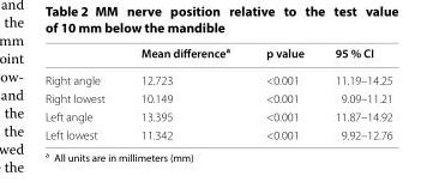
<table><thead><tr><td></td><td>Mean difference<sup>a</sup></td><td>p value</td><td>95 % CI</td></tr></thead><tbody><tr><td>Right angle</td><td>12.723</td><td>&lt;0.001</td><td>11.19–14.25</td></tr><tr><td>Right lowest</td><td>10.149</td><td>&lt;0.001</td><td>9.09–11.21</td></tr><tr><td>Left angle</td><td>13.395</td><td>&lt;0.001</td><td>11.87–14.92</td></tr><tr><td>Left lowest</td><td>11.342</td><td>&lt;0.001</td><td>9.92–12.76</td></tr></tbody></table>